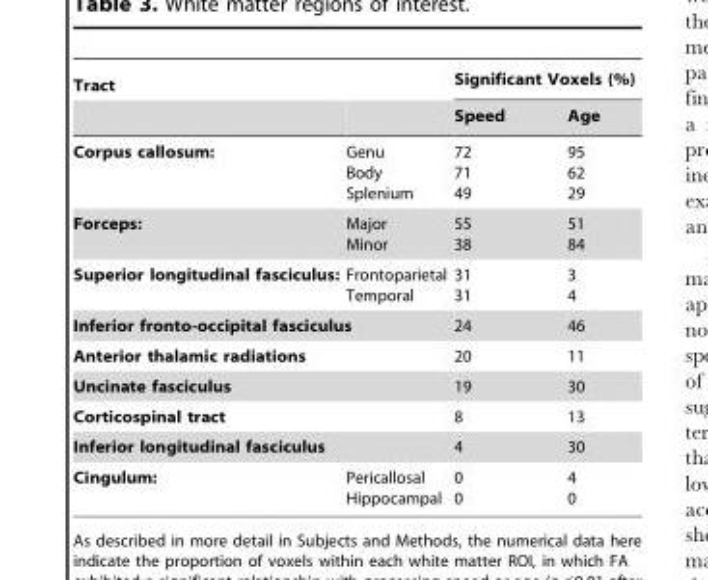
<table><thead><tr><td rowspan="2">Tract</td><td rowspan="2"></td><td colspan="2">Significant Voxels (%)</td></tr><tr><td>Speed</td><td>Age</td></tr></thead><tbody><tr><td>Corpus callosum:</td><td>Genu Body Splenium</td><td>72 71 49</td><td>95 62 29</td></tr><tr><td>Forceps:</td><td>Major Minor</td><td>55 38</td><td>51 84</td></tr><tr><td>Superior longitudinal fasciculus:</td><td>Frontoparietal Temporal</td><td>31 31</td><td>3 4</td></tr><tr><td colspan="2">Inferior fronto-occipital fasciculus</td><td>24</td><td>46</td></tr><tr><td colspan="2">Anterior thalamic radiations</td><td>20</td><td>11</td></tr><tr><td colspan="2">Uncinate fasciculus</td><td>19</td><td>30</td></tr><tr><td colspan="2">Corticospinal tract</td><td>8</td><td>13</td></tr><tr><td colspan="2">Inferior longitudinal fasciculus</td><td>4</td><td>30</td></tr><tr><td>Cingulum:</td><td>Pericallosal Hippocampal</td><td>0 0</td><td>4 0</td></tr></tbody></table>